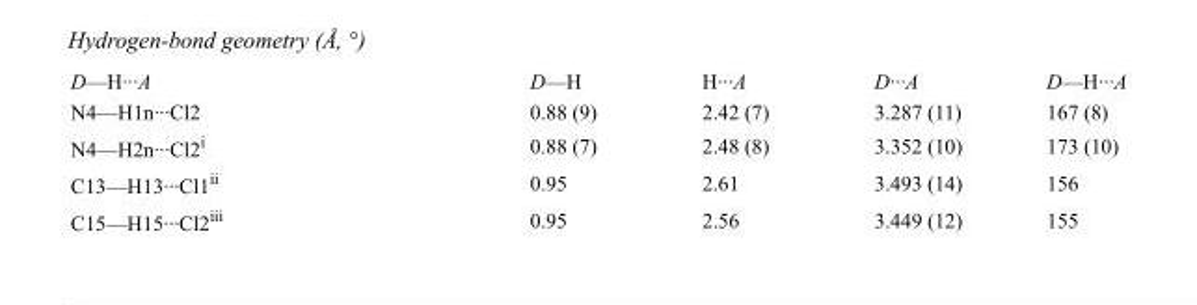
<table><tbody><tr><td>D—H···A</td><td>D—H</td><td>H···A</td><td>D···A</td><td>D—H···A</td></tr><tr><td>N4—H1n···Cl2</td><td>0.88 (9)</td><td>2.42 (7)</td><td>3.287 (11)</td><td>167 (8)</td></tr><tr><td>N4—H2n···Cl2<sup>i</sup></td><td>0.88 (7)</td><td>2.48 (8)</td><td>3.352 (10)</td><td>173 (10)</td></tr><tr><td>C13—H13···Cl1<sup>ii</sup></td><td>0.95</td><td>2.61</td><td>3.493 (14)</td><td>156</td></tr><tr><td>C15—H15···Cl2<sup>iii</sup></td><td>0.95</td><td>2.56</td><td>3.449 (12)</td><td>155</td></tr></tbody></table>